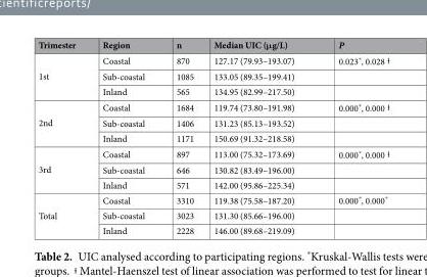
<table><thead><tr><td>Trimester</td><td>Region</td><td>n</td><td>Median UIC (μg/L)</td><td>P</td></tr></thead><tbody><tr><td rowspan="3">1st</td><td>Coastal</td><td>870</td><td>127.17 (79.93–193.07)</td><td>0.023*, 0.028</td></tr><tr><td>Sub-coastal</td><td>1085</td><td>133.05 (89.35–199.41)</td><td></td></tr><tr><td>Inland</td><td>565</td><td>134.95 (82.99–217.50)</td><td></td></tr><tr><td rowspan="3">2nd</td><td>Coastal</td><td>1684</td><td>119.74 (73.80–191.98)</td><td>0.000*, 0.000</td></tr><tr><td>Sub-coastal</td><td>1406</td><td>131.23 (85.13–193.52)</td><td></td></tr><tr><td>Inland</td><td>1171</td><td>150.69 (91.32–218.58)</td><td></td></tr><tr><td rowspan="3">3rd</td><td>Coastal</td><td>897</td><td>113.00 (75.32–173.69)</td><td>0.000*, 0.000</td></tr><tr><td>Sub-coastal</td><td>646</td><td>130.82 (83.49–196.00)</td><td></td></tr><tr><td>Inland</td><td>571</td><td>142.00 (95.86–225.34)</td><td></td></tr><tr><td rowspan="3">Total</td><td>Coastal</td><td>3310</td><td>119.38 (75.58–187.20)</td><td>0.000*, 0.000*</td></tr><tr><td>Sub-coastal</td><td>3023</td><td>131.30 (85.66–196.00)</td><td></td></tr><tr><td>Inland</td><td>2228</td><td>146.00 (89.68–219.09)</td><td></td></tr></tbody></table>